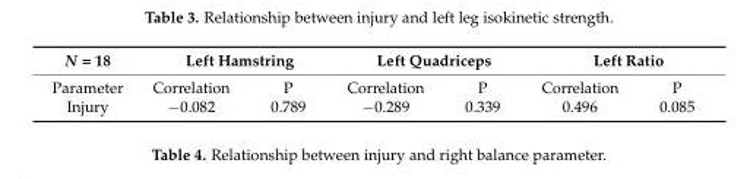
<table><thead><tr><td rowspan="2">N = 18 Parameter</td><td colspan="2">Left Hamstring</td><td colspan="2">Left Quadriceps</td><td colspan="2">Left Ratio</td></tr><tr><td>Correlation</td><td>P</td><td>Correlation</td><td>P</td><td>Correlation</td><td>P</td></tr></thead><tbody><tr><td>Injury</td><td>−0.082</td><td>0.789</td><td>−0.289</td><td>0.339</td><td>0.496</td><td>0.085</td></tr></tbody></table>